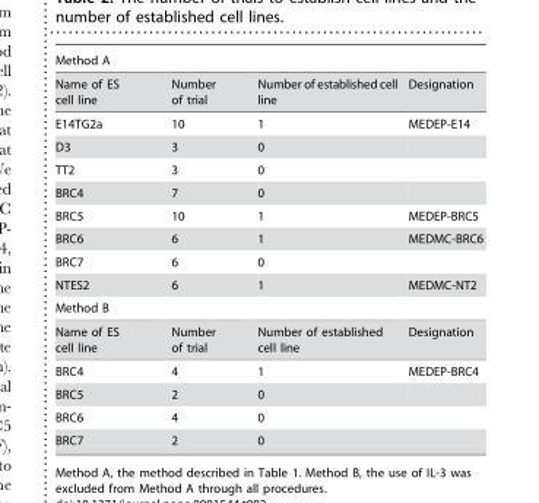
<table><tbody><tr><td colspan="4">Method A</td></tr><tr><td>Name of ES cell line</td><td>Number of trial</td><td>Number of established cell line</td><td>Designation</td></tr><tr><td>E14TG2a</td><td>10</td><td>1</td><td>MEDEP-E14</td></tr><tr><td>D3</td><td>3</td><td>0</td><td></td></tr><tr><td>TT2</td><td>3</td><td>0</td><td></td></tr><tr><td>BRC4</td><td>7</td><td>0</td><td></td></tr><tr><td>BRC5</td><td>10</td><td>1</td><td>MEDEP-BRC5</td></tr><tr><td>BRC6</td><td>6</td><td>1</td><td>MEDMC-BRC6</td></tr><tr><td>BRC7</td><td>6</td><td>0</td><td></td></tr><tr><td>NTES2</td><td>6</td><td>1</td><td>MEDMC-NT2</td></tr><tr><td colspan="4">Method B</td></tr><tr><td>Name of ES cell line</td><td>Number of trial</td><td>Number of established cell line</td><td>Designation</td></tr><tr><td>BRC4</td><td>4</td><td>1</td><td>MEDEP-BRC4</td></tr><tr><td>BRC5</td><td>2</td><td>0</td><td></td></tr><tr><td>BRC6</td><td>4</td><td>0</td><td></td></tr><tr><td>BRC7</td><td>2</td><td>0</td><td></td></tr></tbody></table>